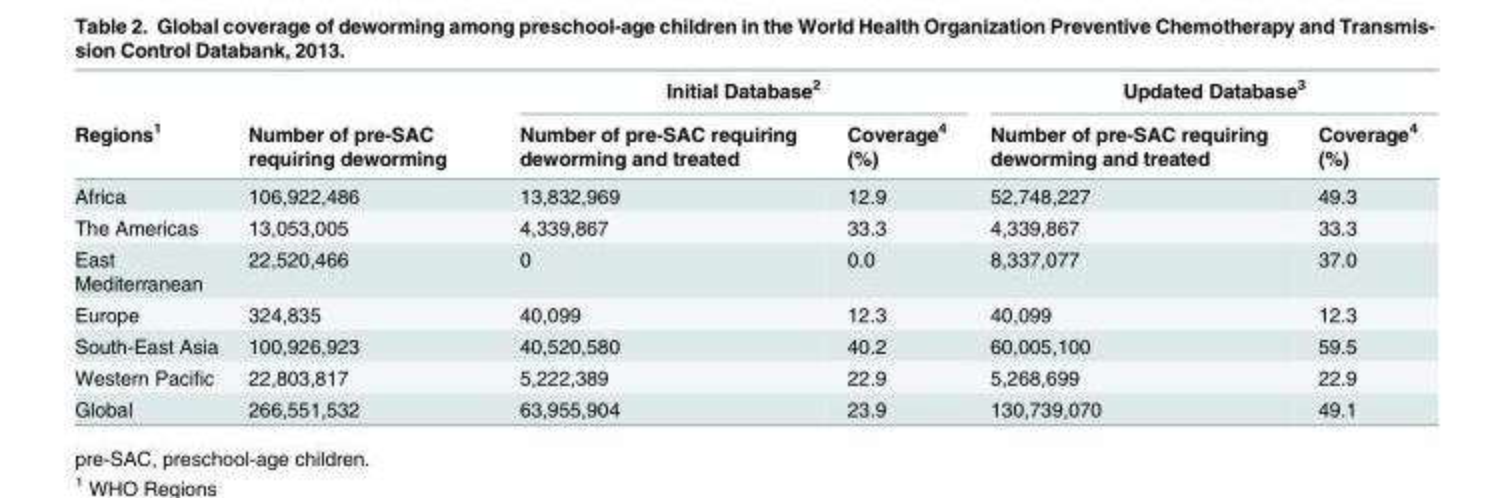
<table><thead><tr><td rowspan="2">Regions<sup>1</sup></td><td rowspan="2">Number of pre-SAC requiring deworming</td><td colspan="2">Initial Database<sup>2</sup></td><td colspan="2">Updated Database<sup>3</sup></td></tr><tr><td>Number of pre-SAC requiring deworming and treated</td><td>Coverage<sup>4</sup> (%)</td><td>Number of pre-SAC requiring deworming and treated</td><td>Coverage<sup>4</sup> (%)</td></tr></thead><tbody><tr><td>Africa</td><td>106,922,486</td><td>13,832,969</td><td>12.9</td><td>52,748,227</td><td>49.3</td></tr><tr><td>The Americas</td><td>13,053,005</td><td>4,339,867</td><td>33.3</td><td>4,339,867</td><td>33.3</td></tr><tr><td>East Mediterranean</td><td>22,520,466</td><td>0</td><td>0.0</td><td>8,337,077</td><td>37.0</td></tr><tr><td>Europe</td><td>324,835</td><td>40,099</td><td>12.3</td><td>40,099</td><td>12.3</td></tr><tr><td>South-East Asia</td><td>100,926,923</td><td>40,520,580</td><td>40.2</td><td>60,005,100</td><td>59.5</td></tr><tr><td>Western Pacific</td><td>22,803,817</td><td>5,222,389</td><td>22.9</td><td>5,268,699</td><td>22.9</td></tr><tr><td>Global</td><td>266,551,532</td><td>63,955,904</td><td>23.9</td><td>130,739,070</td><td>49.1</td></tr></tbody></table>